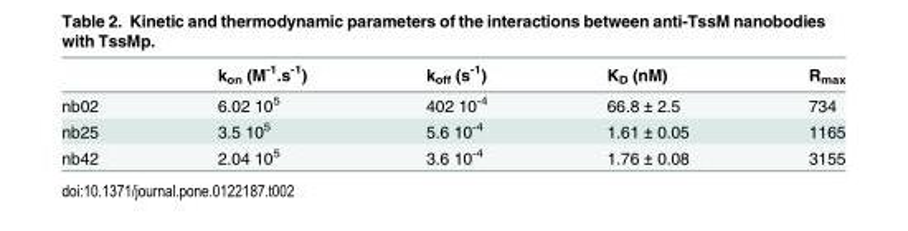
<table><thead><tr><td></td><td>k<sub>on</sub> (M<sup>-1</sup>.s<sup>-1</sup>)</td><td>k<sub>off</sub> (s<sup>-1</sup>)</td><td>K<sub>D</sub> (nM)</td><td>R<sub>max</sub></td></tr></thead><tbody><tr><td>nb02</td><td>6.02 10<sup>5</sup></td><td>402 10<sup>-4</sup></td><td>66.8 ± 2.5</td><td>734</td></tr><tr><td>nb25</td><td>3.5 10<sup>5</sup></td><td>5.6 10<sup>-4</sup></td><td>1.61 ± 0.05</td><td>1165</td></tr><tr><td>nb42</td><td>2.04 10<sup>5</sup></td><td>3.6 10<sup>-4</sup></td><td>1.76 ± 0.08</td><td>3155</td></tr></tbody></table>